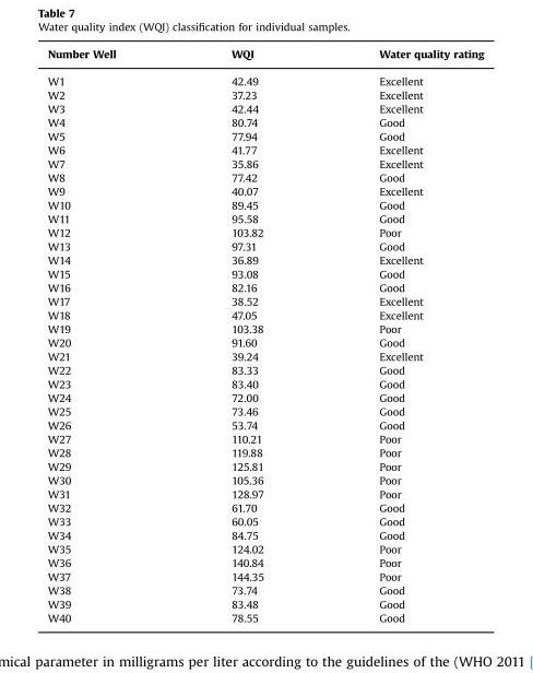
<table><thead><tr><td>Number Well</td><td>WQI</td><td>Water quality rating</td></tr></thead><tbody><tr><td>W1</td><td>42.49</td><td>Excellent</td></tr><tr><td>W2</td><td>37.23</td><td>Excellent</td></tr><tr><td>W3</td><td>42.44</td><td>Excellent</td></tr><tr><td>W4</td><td>80.74</td><td>Good</td></tr><tr><td>W5</td><td>77.94</td><td>Good</td></tr><tr><td>W6</td><td>41.77</td><td>Excellent</td></tr><tr><td>W7</td><td>35.86</td><td>Excellent</td></tr><tr><td>W8</td><td>77.42</td><td>Good</td></tr><tr><td>W9</td><td>40.07</td><td>Excellent</td></tr><tr><td>W10</td><td>89.45</td><td>Good</td></tr><tr><td>W11</td><td>95.58</td><td>Good</td></tr><tr><td>W12</td><td>103.82</td><td>Poor</td></tr><tr><td>W13</td><td>97.31</td><td>Good</td></tr><tr><td>W14</td><td>36.89</td><td>Excellent</td></tr><tr><td>W15</td><td>93.08</td><td>Good</td></tr><tr><td>W16</td><td>82.16</td><td>Good</td></tr><tr><td>W17</td><td>38.52</td><td>Excellent</td></tr><tr><td>W18</td><td>47.05</td><td>Excellent</td></tr><tr><td>W19</td><td>103.38</td><td>Poor</td></tr><tr><td>W20</td><td>91.60</td><td>Good</td></tr><tr><td>W21</td><td>39.24</td><td>Excellent</td></tr><tr><td>W22</td><td>83.33</td><td>Good</td></tr><tr><td>W23</td><td>83.40</td><td>Good</td></tr><tr><td>W24</td><td>72.00</td><td>Good</td></tr><tr><td>W25</td><td>73.46</td><td>Good</td></tr><tr><td>W26</td><td>53.74</td><td>Good</td></tr><tr><td>W27</td><td>110.21</td><td>Poor</td></tr><tr><td>W28</td><td>119.88</td><td>Poor</td></tr><tr><td>W29</td><td>125.81</td><td>Poor</td></tr><tr><td>W30</td><td>105.36</td><td>Poor</td></tr><tr><td>W31</td><td>128.97</td><td>Poor</td></tr><tr><td>W32</td><td>61.70</td><td>Good</td></tr><tr><td>W33</td><td>60.05</td><td>Good</td></tr><tr><td>W34</td><td>84.75</td><td>Good</td></tr><tr><td>W35</td><td>124.02</td><td>Poor</td></tr><tr><td>W36</td><td>140.84</td><td>Poor</td></tr><tr><td>W37</td><td>144.35</td><td>Poor</td></tr><tr><td>W38</td><td>73.74</td><td>Good</td></tr><tr><td>W39</td><td>83.48</td><td>Good</td></tr><tr><td>W40</td><td>78.55</td><td>Good</td></tr></tbody></table>